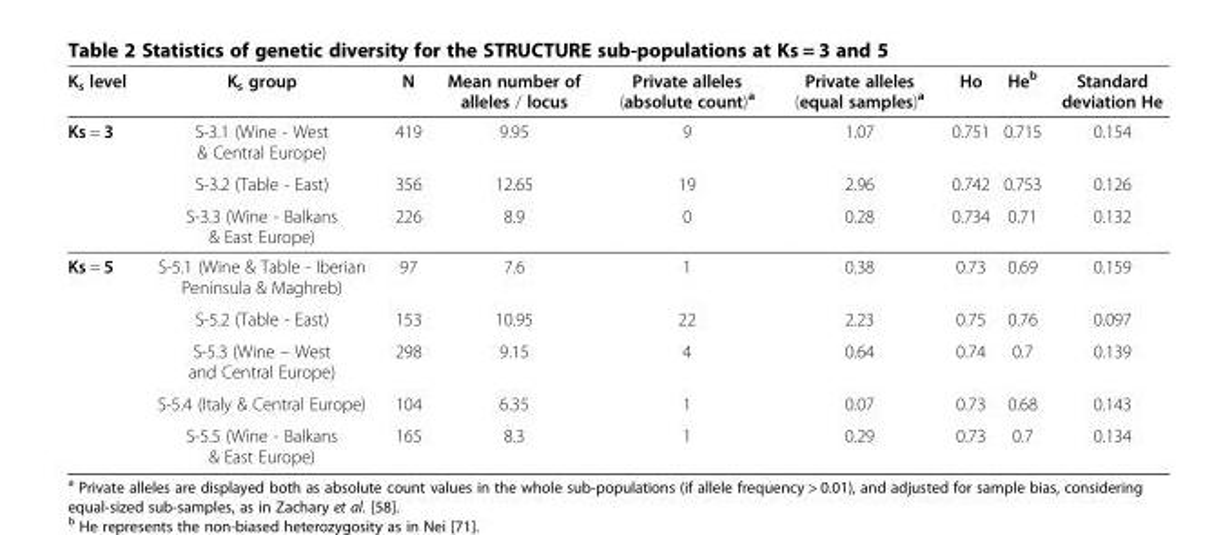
<table><thead><tr><td>K<sub>s</sub> level</td><td>K<sub>s</sub> group</td><td>N</td><td>Mean number of alleles / locus</td><td>Private alleles (absolute count)<sup>a</sup></td><td>Private alleles (equal samples)<sup>a</sup></td><td>Ho</td><td>He<sup>b</sup></td><td>Standard deviation He</td></tr></thead><tbody><tr><td rowspan="3">Ks = 3</td><td>S-3.1 (Wine - West &amp; Central Europe)</td><td>419</td><td>9.95</td><td>9</td><td>1.07</td><td>0.751</td><td>0.715</td><td>0.154</td></tr><tr><td>S-3.2 (Table - East)</td><td>356</td><td>12.65</td><td>19</td><td>2.96</td><td>0.742</td><td>0.753</td><td>0.126</td></tr><tr><td>S-3.3 (Wine - Balkans &amp; East Europe)</td><td>226</td><td>8.9</td><td>0</td><td>0.28</td><td>0.734</td><td>0.71</td><td>0.132</td></tr><tr><td rowspan="5">Ks = 5</td><td>S-5.1 (Wine &amp; Table - Iberian Peninsula &amp; Maghreb)</td><td>97</td><td>7.6</td><td>1</td><td>0.38</td><td>0.73</td><td>0.69</td><td>0.159</td></tr><tr><td>S-5.2 (Table - East)</td><td>153</td><td>10.95</td><td>22</td><td>2.23</td><td>0.75</td><td>0.76</td><td>0.097</td></tr><tr><td>S-5.3 (Wine – West and Central Europe)</td><td>298</td><td>9.15</td><td>4</td><td>0.64</td><td>0.74</td><td>0.7</td><td>0.139</td></tr><tr><td>S-5.4 (Italy &amp; Central Europe)</td><td>104</td><td>6.35</td><td>1</td><td>0.07</td><td>0.73</td><td>0.68</td><td>0.143</td></tr><tr><td>S-5.5 (Wine - Balkans &amp; East Europe)</td><td>165</td><td>8.3</td><td>1</td><td>0.29</td><td>0.73</td><td>0.7</td><td>0.134</td></tr></tbody></table>